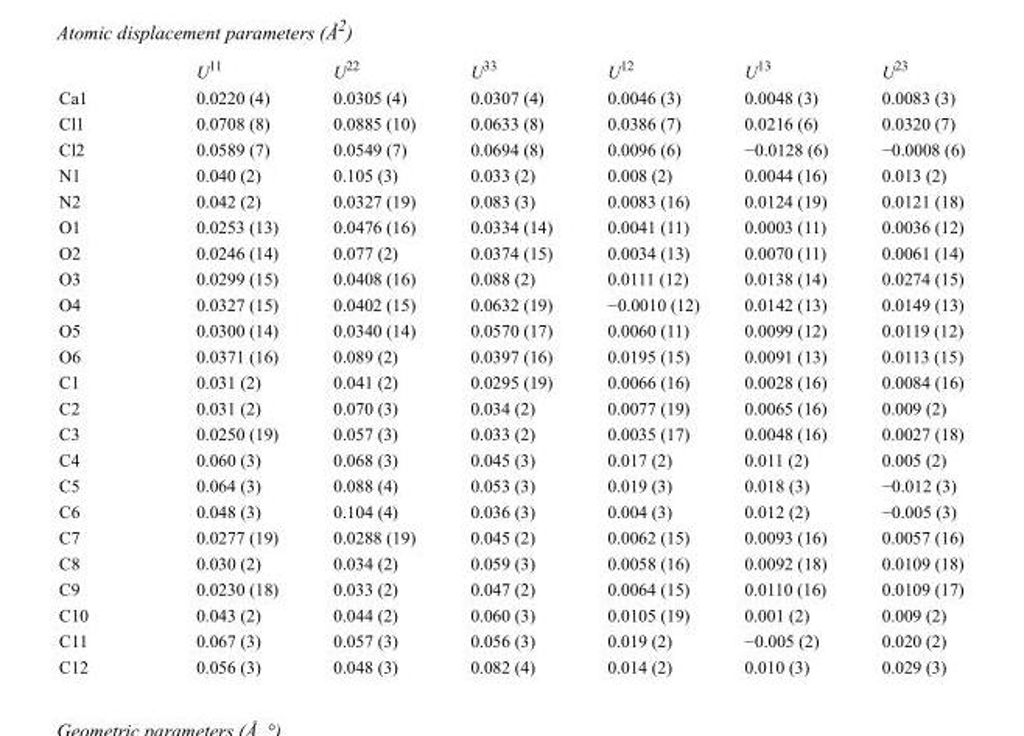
<table><thead><tr><td></td><td>U<sup>11</sup></td><td>U<sup>22</sup></td><td>U<sup>33</sup></td><td>U<sup>12</sup></td><td>U<sup>13</sup></td><td>U<sup>23</sup></td></tr></thead><tbody><tr><td>Ca1</td><td>0.0220 (4)</td><td>0.0305 (4)</td><td>0.0307 (4)</td><td>0.0046 (3)</td><td>0.0048 (3)</td><td>0.0083 (3)</td></tr><tr><td>Cl1</td><td>0.0708 (8)</td><td>0.0885 (10)</td><td>0.0633 (8)</td><td>0.0386 (7)</td><td>0.0216 (6)</td><td>0.0320 (7)</td></tr><tr><td>Cl2</td><td>0.0589 (7)</td><td>0.0549 (7)</td><td>0.0694 (8)</td><td>0.0096 (6)</td><td>−0.0128 (6)</td><td>−0.0008 (6)</td></tr><tr><td>N1</td><td>0.040 (2)</td><td>0.105 (3)</td><td>0.033 (2)</td><td>0.008 (2)</td><td>0.0044 (16)</td><td>0.013 (2)</td></tr><tr><td>N2</td><td>0.042 (2)</td><td>0.0327 (19)</td><td>0.083 (3)</td><td>0.0083 (16)</td><td>0.0124 (19)</td><td>0.0121 (18)</td></tr><tr><td>O1</td><td>0.0253 (13)</td><td>0.0476 (16)</td><td>0.0334 (14)</td><td>0.0041 (11)</td><td>0.0003 (11)</td><td>0.0036 (12)</td></tr><tr><td>O2</td><td>0.0246 (14)</td><td>0.077 (2)</td><td>0.0374 (15)</td><td>0.0034 (13)</td><td>0.0070 (11)</td><td>0.0061 (14)</td></tr><tr><td>O3</td><td>0.0299 (15)</td><td>0.0408 (16)</td><td>0.088 (2)</td><td>0.0111 (12)</td><td>0.0138 (14)</td><td>0.0274 (15)</td></tr><tr><td>O4</td><td>0.0327 (15)</td><td>0.0402 (15)</td><td>0.0632 (19)</td><td>−0.0010 (12)</td><td>0.0142 (13)</td><td>0.0149 (13)</td></tr><tr><td>O5</td><td>0.0300 (14)</td><td>0.0340 (14)</td><td>0.0570 (17)</td><td>0.0060 (11)</td><td>0.0099 (12)</td><td>0.0119 (12)</td></tr><tr><td>O6</td><td>0.0371 (16)</td><td>0.089 (2)</td><td>0.0397 (16)</td><td>0.0195 (15)</td><td>0.0091 (13)</td><td>0.0113 (15)</td></tr><tr><td>C1</td><td>0.031 (2)</td><td>0.041 (2)</td><td>0.0295 (19)</td><td>0.0066 (16)</td><td>0.0028 (16)</td><td>0.0084 (16)</td></tr><tr><td>C2</td><td>0.031 (2)</td><td>0.070 (3)</td><td>0.034 (2)</td><td>0.0077 (19)</td><td>0.0065 (16)</td><td>0.009 (2)</td></tr><tr><td>C3</td><td>0.0250 (19)</td><td>0.057 (3)</td><td>0.033 (2)</td><td>0.0035 (17)</td><td>0.0048 (16)</td><td>0.0027 (18)</td></tr><tr><td>C4</td><td>0.060 (3)</td><td>0.068 (3)</td><td>0.045 (3)</td><td>0.017 (2)</td><td>0.011 (2)</td><td>0.005 (2)</td></tr><tr><td>C5</td><td>0.064 (3)</td><td>0.088 (4)</td><td>0.053 (3)</td><td>0.019 (3)</td><td>0.018 (3)</td><td>−0.012 (3)</td></tr><tr><td>C6</td><td>0.048 (3)</td><td>0.104 (4)</td><td>0.036 (3)</td><td>0.004 (3)</td><td>0.012 (2)</td><td>−0.005 (3)</td></tr><tr><td>C7</td><td>0.0277 (19)</td><td>0.0288 (19)</td><td>0.045 (2)</td><td>0.0062 (15)</td><td>0.0093 (16)</td><td>0.0057 (16)</td></tr><tr><td>C8</td><td>0.030 (2)</td><td>0.034 (2)</td><td>0.059 (3)</td><td>0.0058 (16)</td><td>0.0092 (18)</td><td>0.0109 (18)</td></tr><tr><td>C9</td><td>0.0230 (18)</td><td>0.033 (2)</td><td>0.047 (2)</td><td>0.0064 (15)</td><td>0.0110 (16)</td><td>0.0109 (17)</td></tr><tr><td>C10</td><td>0.043 (2)</td><td>0.044 (2)</td><td>0.060 (3)</td><td>0.0105 (19)</td><td>0.001 (2)</td><td>0.009 (2)</td></tr><tr><td>C11</td><td>0.067 (3)</td><td>0.057 (3)</td><td>0.056 (3)</td><td>0.019 (2)</td><td>−0.005 (2)</td><td>0.020 (2)</td></tr><tr><td>C12</td><td>0.056 (3)</td><td>0.048 (3)</td><td>0.082 (4)</td><td>0.014 (2)</td><td>0.010 (3)</td><td>0.029 (3)</td></tr></tbody></table>